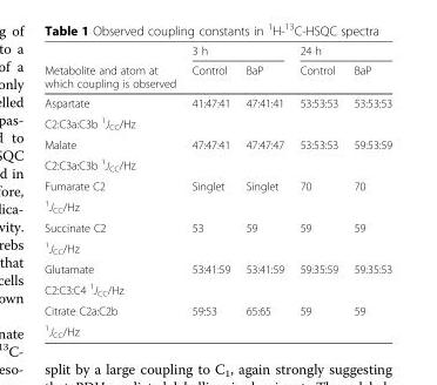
<table><thead><tr><td rowspan="2">Metabolite and atom at which coupling is observed</td><td colspan="2">3 h</td><td colspan="2">24 h</td></tr><tr><td>Control</td><td>BaP</td><td>Control</td><td>BaP</td></tr></thead><tbody><tr><td>Aspartate</td><td>41:47:41</td><td>47:41:41</td><td>53:53:53</td><td>53:53:53</td></tr><tr><td colspan="5">C2:C3a:C3b <sup>1</sup>J<sub>CC</sub>/Hz</td></tr><tr><td>Malate</td><td>47:47:41</td><td>47:47:47</td><td>53:53:53</td><td>59:53:59</td></tr><tr><td colspan="5">C2:C3a:C3b <sup>1</sup>J<sub>CC</sub>/Hz</td></tr><tr><td>Fumarate C2</td><td rowspan="2">Singlet</td><td rowspan="2">Singlet</td><td rowspan="2">70</td><td rowspan="2">70</td></tr><tr><td><sup>1</sup>J<sub>CC</sub>/Hz</td></tr><tr><td>Succinate C2</td><td rowspan="2">53</td><td rowspan="2">59</td><td rowspan="2">59</td><td rowspan="2">59</td></tr><tr><td><sup>1</sup>J<sub>CC</sub>/Hz</td></tr><tr><td>Glutamate</td><td rowspan="2">53:41:59</td><td rowspan="2">53:41:59</td><td rowspan="2">59:35:59</td><td rowspan="2">59:35:53</td></tr><tr><td>C2:C3:C4 <sup>1</sup>J<sub>CC</sub>/Hz</td></tr><tr><td>Citrate C2a:C2b</td><td rowspan="2">59:53</td><td rowspan="2">65:65</td><td rowspan="2">59</td><td rowspan="2">59</td></tr><tr><td><sup>1</sup>J<sub>CC</sub>/Hz</td></tr></tbody></table>